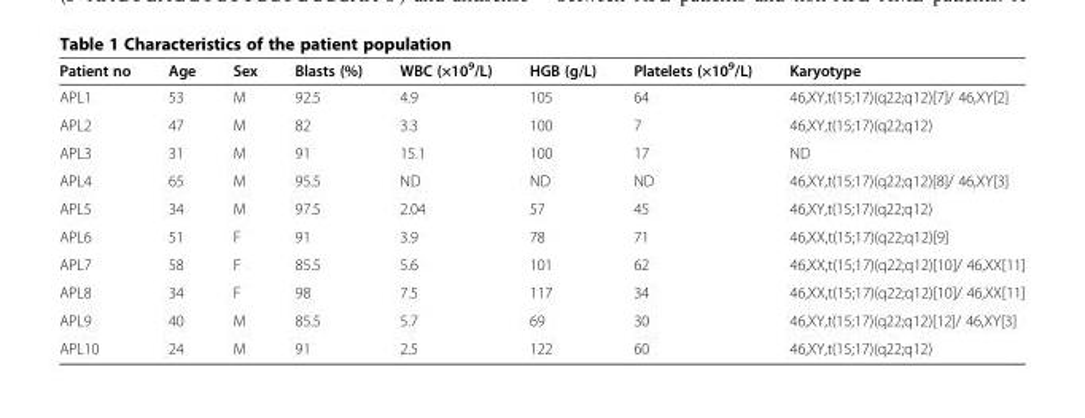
<table><thead><tr><td>Patient no</td><td>Age</td><td>Sex</td><td>Blasts (%)</td><td>WBC (×10<sup>9</sup>/L)</td><td>HGB (g/L)</td><td>Platelets (×10<sup>9</sup>/L)</td><td>Karyotype</td></tr></thead><tbody><tr><td>APL1</td><td>53</td><td>M</td><td>92.5</td><td>4.9</td><td>105</td><td>64</td><td>46,XY,t(15;17)(q22;q12)[7]/ 46,XY[2]</td></tr><tr><td>APL2</td><td>47</td><td>M</td><td>82</td><td>3.3</td><td>100</td><td>7</td><td>46,XY,t(15;17)(q22;q12)</td></tr><tr><td>APL3</td><td>31</td><td>M</td><td>91</td><td>15.1</td><td>100</td><td>17</td><td>ND</td></tr><tr><td>APL4</td><td>65</td><td>M</td><td>95.5</td><td>ND</td><td>ND</td><td>ND</td><td>46,XY,t(15;17)(q22;q12)[8]/ 46,XY[3]</td></tr><tr><td>APL5</td><td>34</td><td>M</td><td>97.5</td><td>2.04</td><td>57</td><td>45</td><td>46,XY,t(15;17)(q22;q12)</td></tr><tr><td>APL6</td><td>51</td><td>F</td><td>91</td><td>3.9</td><td>78</td><td>71</td><td>46,XX,t(15;17)(q22;q12)[9]</td></tr><tr><td>APL7</td><td>58</td><td>F</td><td>85.5</td><td>5.6</td><td>101</td><td>62</td><td>46,XX,t(15;17)(q22;q12)[10]/ 46,XX[11]</td></tr><tr><td>APL8</td><td>34</td><td>F</td><td>98</td><td>7.5</td><td>117</td><td>34</td><td>46,XX,t(15;17)(q22;q12)[10]/ 46,XX[11]</td></tr><tr><td>APL9</td><td>40</td><td>M</td><td>85.5</td><td>5.7</td><td>69</td><td>30</td><td>46,XY,t(15;17)(q22;q12)[12]/ 46,XY[3]</td></tr><tr><td>APL10</td><td>24</td><td>M</td><td>91</td><td>2.5</td><td>122</td><td>60</td><td>46,XY,t(15;17)(q22;q12)</td></tr></tbody></table>